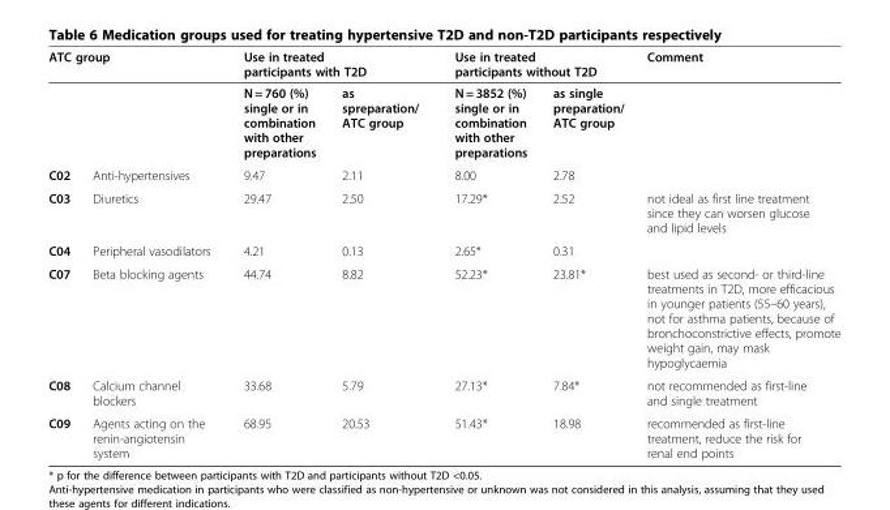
<table><thead><tr><td colspan="2">ATC group</td><td colspan="2">Use in treated participants with T2D</td><td colspan="2">Use in treated participants without T2D</td><td rowspan="2">Comment</td></tr><tr><td></td><td></td><td>N = 760 (%) single or in combination with other preparations</td><td>as spreparation/ ATC group</td><td>N = 3852 (%) single or in combination with other preparations</td><td>as single preparation/ ATC group</td></tr></thead><tbody><tr><td>C02</td><td>Anti-hypertensives</td><td>9.47</td><td>2.11</td><td>8.00</td><td>2.78</td><td></td></tr><tr><td>C03</td><td>Diuretics</td><td>29.47</td><td>2.50</td><td>17.29*</td><td>2.52</td><td>not ideal as first line treatment since they can worsen glucose and lipid levels</td></tr><tr><td>C04</td><td>Peripheral vasodilators</td><td>4.21</td><td>0.13</td><td>2.65*</td><td>0.31</td><td></td></tr><tr><td>C07</td><td>Beta blocking agents</td><td>44.74</td><td>8.82</td><td>52.23*</td><td>23.81*</td><td>best used as second- or third-line treatments in T2D, more efficacious in younger patients (55–60 years), not for asthma patients, because of bronchoconstrictive effects, promote weight gain, may mask hypoglycaemia</td></tr><tr><td>C08</td><td>Calcium channel blockers</td><td>33.68</td><td>5.79</td><td>27.13*</td><td>7.84*</td><td>not recommended as first-line and single treatment</td></tr><tr><td>C09</td><td>Agents acting on the renin-angiotensin system</td><td>68.95</td><td>20.53</td><td>51.43*</td><td>18.98</td><td>recommended as first-line treatment, reduce the risk for renal end points</td></tr></tbody></table>